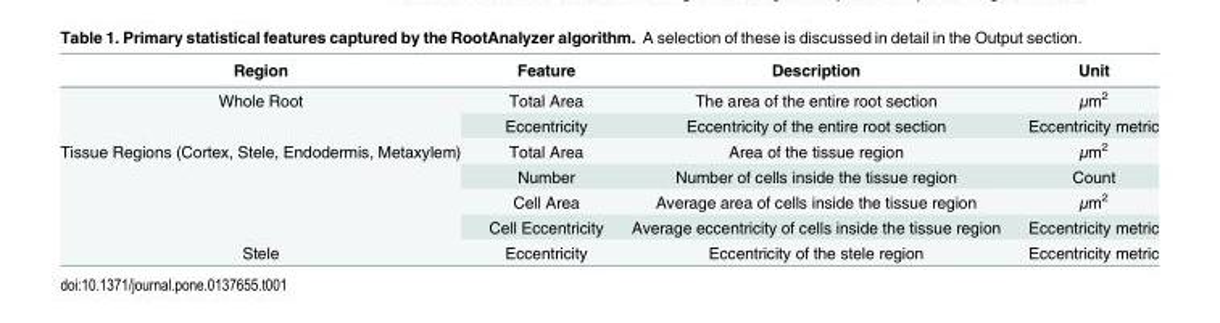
<table><thead><tr><td>Region</td><td>Feature</td><td>Description</td><td>Unit</td></tr></thead><tbody><tr><td rowspan="2">Whole Root</td><td>Total Area</td><td>The area of the entire root section</td><td>μm<sup>2</sup></td></tr><tr><td>Eccentricity</td><td>Eccentricity of the entire root section</td><td>Eccentricity metric</td></tr><tr><td rowspan="4">Tissue Regions (Cortex, Stele, Endodermis, Metaxylem)</td><td>Total Area</td><td>Area of the tissue region</td><td>μm<sup>2</sup></td></tr><tr><td>Number</td><td>Number of cells inside the tissue region</td><td>Count</td></tr><tr><td>Cell Area</td><td>Average area of cells inside the tissue region</td><td>μm<sup>2</sup></td></tr><tr><td>Cell Eccentricity</td><td>Average eccentricity of cells inside the tissue region</td><td>Eccentricity metric</td></tr><tr><td>Stele</td><td>Eccentricity</td><td>Eccentricity of the stele region</td><td>Eccentricity metric</td></tr></tbody></table>